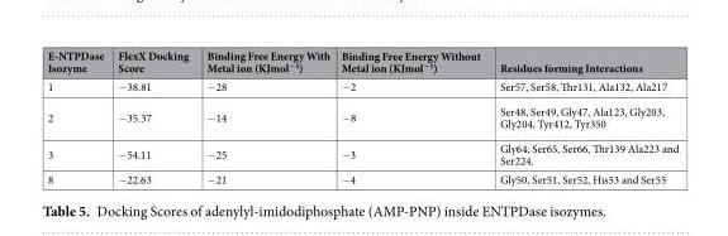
<table><thead><tr><td>E-NTPDase Isozyme</td><td>FlexX Docking Score</td><td>Binding Free Energy With Metal ion (KJmol<sup>−1</sup>)</td><td>Binding Free Energy Without Metal ion (KJmol<sup>−1</sup>)</td><td>Residues forming Interactions</td></tr></thead><tbody><tr><td>1</td><td>−38.81</td><td>−28</td><td>−2</td><td>Ser57, Ser58, Thr131, Ala132, Ala217</td></tr><tr><td>2</td><td>−35.37</td><td>−14</td><td>−8</td><td>Ser48, Ser49, Gly47, Ala123, Gly203, Gly204, Tyr412, Tyr350</td></tr><tr><td>3</td><td>−54.11</td><td>−25</td><td>−3</td><td>Gly64, Ser65, Ser66, Thr139 Ala223 and Ser224.</td></tr><tr><td>8</td><td>−22.63</td><td>−21</td><td>−4</td><td>Gly50, Ser51, Ser52, His53 and Ser55</td></tr></tbody></table>